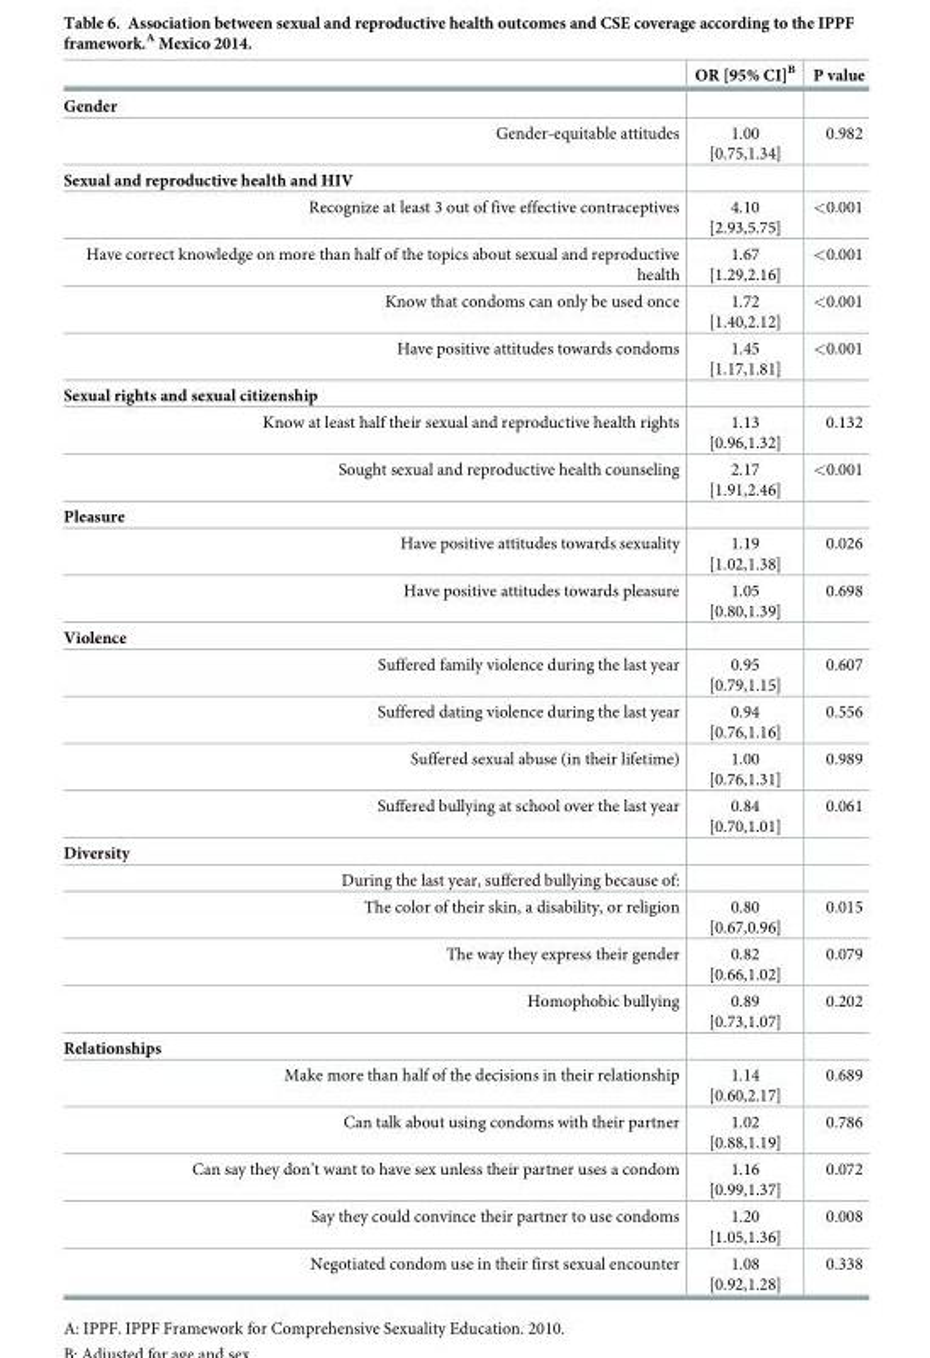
<table><thead><tr><td></td><td>OR [95% CI]<sup>B</sup></td><td>P value</td></tr></thead><tbody><tr><td colspan="3">Gender</td></tr><tr><td>Gender-equitable attitudes</td><td>1.00 [0.75,1.34]</td><td>0.982</td></tr><tr><td colspan="3">Sexual and reproductive health and HIV</td></tr><tr><td>Recognize at least 3 out of five effective contraceptives</td><td>4.10 [2.93,5.75]</td><td>&lt;0.001</td></tr><tr><td>Have correct knowledge on more than half of the topics about sexual and reproductive health</td><td>1.67 [1.29,2.16]</td><td>&lt;0.001</td></tr><tr><td>Know that condoms can only be used once</td><td>1.72 [1.40,2.12]</td><td>&lt;0.001</td></tr><tr><td>Have positive attitudes towards condoms</td><td>1.45 [1.17,1.81]</td><td>&lt;0.001</td></tr><tr><td colspan="3">Sexual rights and sexual citizenship</td></tr><tr><td>Know at least half their sexual and reproductive health rights</td><td>1.13 [0.96,1.32]</td><td>0.132</td></tr><tr><td>Sought sexual and reproductive health counseling</td><td>2.17 [1.91,2.46]</td><td>&lt;0.001</td></tr><tr><td colspan="3">Pleasure</td></tr><tr><td>Have positive attitudes towards sexuality</td><td>1.19 [1.02,1.38]</td><td>0.026</td></tr><tr><td>Have positive attitudes towards pleasure</td><td>1.05 [0.80,1.39]</td><td>0.698</td></tr><tr><td colspan="3">Violence</td></tr><tr><td>Suffered family violence during the last year</td><td>0.95 [0.79,1.15]</td><td>0.607</td></tr><tr><td>Suffered dating violence during the last year</td><td>0.94 [0.76,1.16]</td><td>0.556</td></tr><tr><td>Suffered sexual abuse (in their lifetime)</td><td>1.00 [0.76,1.31]</td><td>0.989</td></tr><tr><td>Suffered bullying at school over the last year</td><td>0.84 [0.70,1.01]</td><td>0.061</td></tr><tr><td colspan="3">Diversity</td></tr><tr><td colspan="3">During the last year, suffered bullying because of:</td></tr><tr><td>The color of their skin, a disability, or religion</td><td>0.80 [0.67,0.96]</td><td>0.015</td></tr><tr><td>The way they express their gender</td><td>0.82 [0.66,1.02]</td><td>0.079</td></tr><tr><td>Homophobic bullying</td><td>0.89 [0.73,1.07]</td><td>0.202</td></tr><tr><td colspan="3">Relationships</td></tr><tr><td>Make more than half of the decisions in their relationship</td><td>1.14 [0.60,2.17]</td><td>0.689</td></tr><tr><td>Can talk about using condoms with their partner</td><td>1.02 [0.88,1.19]</td><td>0.786</td></tr><tr><td>Can say they don’t want to have sex unless their partner uses a condom</td><td>1.16 [0.99,1.37]</td><td>0.072</td></tr><tr><td>Say they could convince their partner to use condoms</td><td>1.20 [1.05,1.36]</td><td>0.008</td></tr><tr><td>Negotiated condom use in their first sexual encounter</td><td>1.08 [0.92,1.28]</td><td>0.338</td></tr></tbody></table>